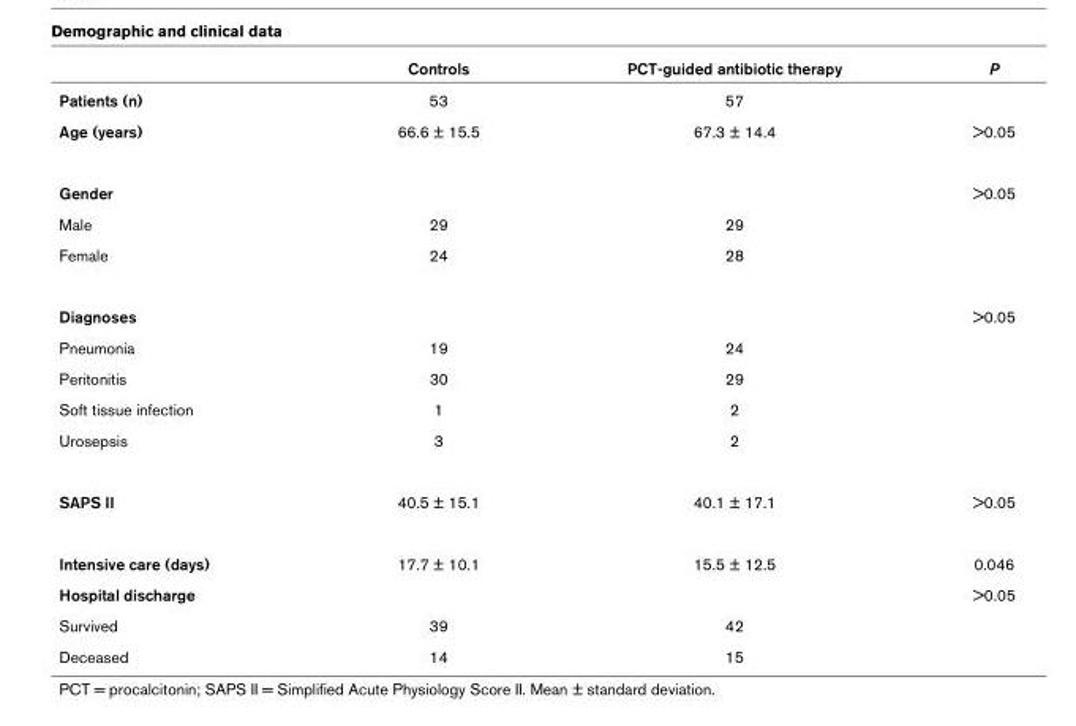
<table><thead><tr><td></td><td>Controls</td><td>PCT-guided antibiotic therapy</td><td>P</td></tr></thead><tbody><tr><td>Patients (n)</td><td>53</td><td>57</td><td></td></tr><tr><td>Age (years)</td><td>66.6 ± 15.5</td><td>67.3 ± 14.4</td><td>&gt;0.05</td></tr><tr><td>Gender</td><td></td><td></td><td>&gt;0.05</td></tr><tr><td>Male</td><td>29</td><td>29</td><td></td></tr><tr><td>Female</td><td>24</td><td>28</td><td></td></tr><tr><td>Diagnoses</td><td></td><td></td><td>&gt;0.05</td></tr><tr><td>Pneumonia</td><td>19</td><td>24</td><td></td></tr><tr><td>Peritonitis</td><td>30</td><td>29</td><td></td></tr><tr><td>Soft tissue infection</td><td>1</td><td>2</td><td></td></tr><tr><td>Urosepsis</td><td>3</td><td>2</td><td></td></tr><tr><td>SAPS II</td><td>40.5 ± 15.1</td><td>40.1 ± 17.1</td><td>&gt;0.05</td></tr><tr><td>Intensive care (days)</td><td>17.7 ± 10.1</td><td>15.5 ± 12.5</td><td>0.046</td></tr><tr><td>Hospital discharge</td><td></td><td></td><td>&gt;0.05</td></tr><tr><td>Survived</td><td>39</td><td>42</td><td></td></tr><tr><td>Deceased</td><td>14</td><td>15</td><td></td></tr></tbody></table>